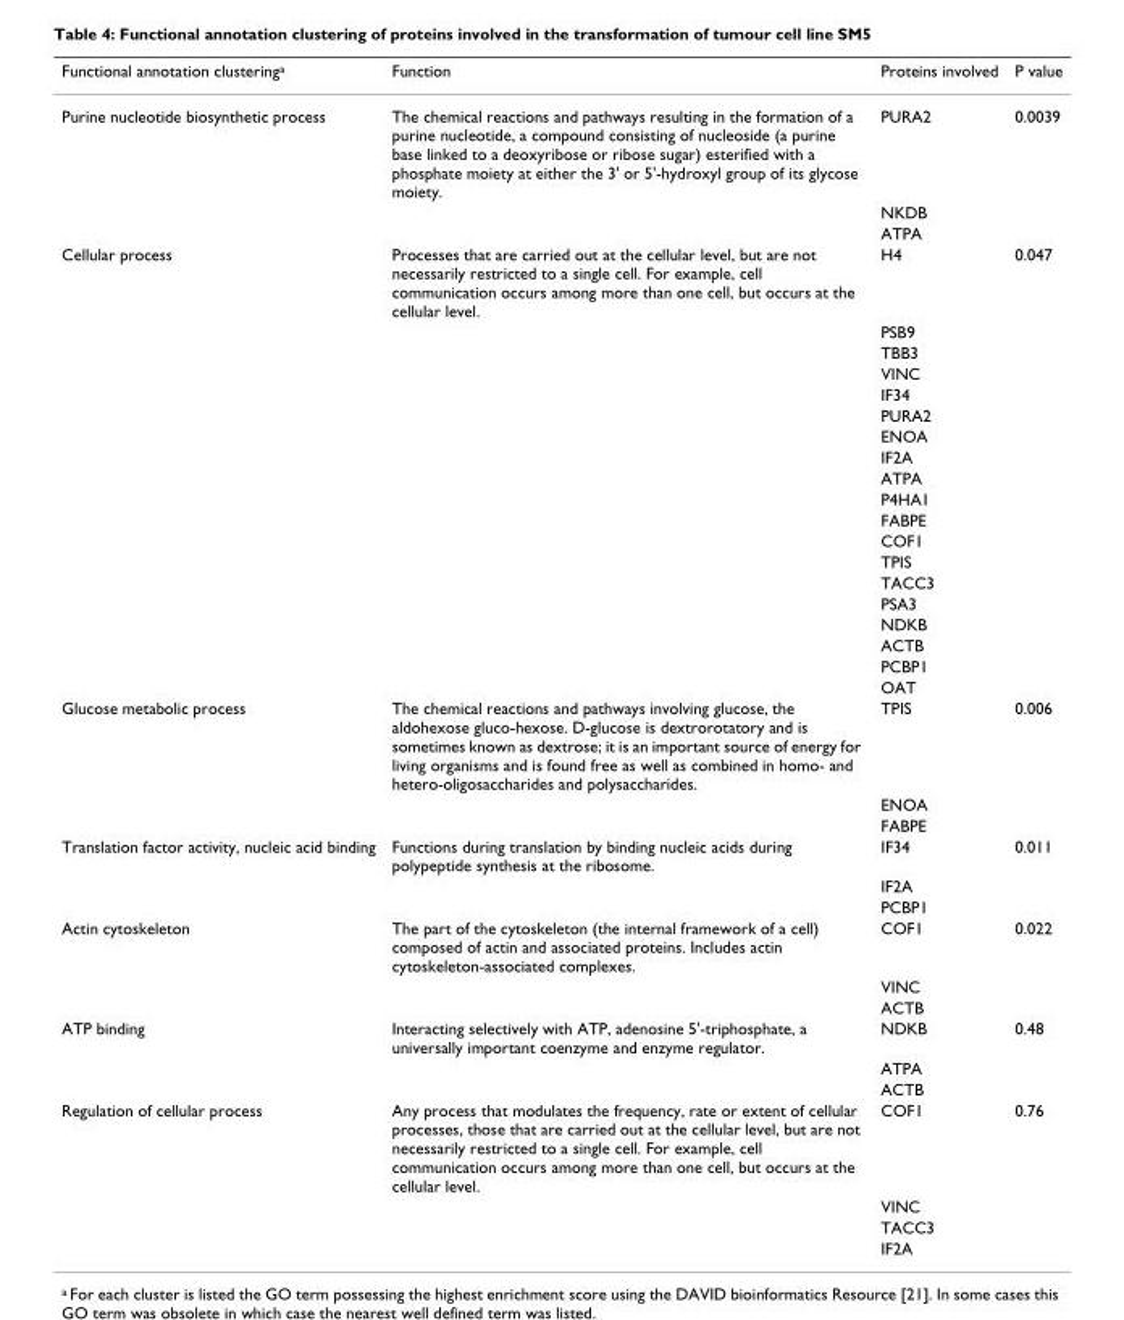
<table><thead><tr><td>Functional annotation clustering<sup>a</sup></td><td>Function</td><td>Proteins involved</td><td>P value</td></tr></thead><tbody><tr><td rowspan="3">Purine nucleotide biosynthetic process</td><td>The chemical reactions and pathways resulting in the formation of a purine nucleotide, a compound consisting of nucleoside (a purine base linked to a deoxyribose or ribose sugar) esterified with a phosphate moiety at either the 3&#x27; or 5&#x27;-hydroxyl group of its glycose moiety.</td><td>PURA2</td><td>0.0039</td></tr><tr><td></td><td>NKDB</td><td></td></tr><tr><td></td><td>ATPA</td><td></td></tr><tr><td rowspan="19">Cellular process</td><td>Processes that are carried out at the cellular level, but are not necessarily restricted to a single cell. For example, cell communication occurs among more than one cell, but occurs at the cellular level.</td><td>H4</td><td>0.047</td></tr><tr><td></td><td>PSB9</td><td></td></tr><tr><td></td><td>TBB3</td><td></td></tr><tr><td></td><td>VINC</td><td></td></tr><tr><td></td><td>IF34</td><td></td></tr><tr><td></td><td>PURA2</td><td></td></tr><tr><td></td><td>ENOA</td><td></td></tr><tr><td></td><td>IF2A</td><td></td></tr><tr><td></td><td>ATPA</td><td></td></tr><tr><td></td><td>P4HA1</td><td></td></tr><tr><td></td><td>FABPE</td><td></td></tr><tr><td></td><td>COF1</td><td></td></tr><tr><td></td><td>TPIS</td><td></td></tr><tr><td></td><td>TACC3</td><td></td></tr><tr><td></td><td>PSA3</td><td></td></tr><tr><td></td><td>NDKB</td><td></td></tr><tr><td></td><td>ACTB</td><td></td></tr><tr><td></td><td>PCBP1</td><td></td></tr><tr><td></td><td>OAT</td><td></td></tr><tr><td rowspan="3">Glucose metabolic process</td><td>The chemical reactions and pathways involving glucose, the aldohexose gluco-hexose. D-glucose is dextrorotatory and is sometimes known as dextrose; it is an important source of energy for living organisms and is found free as well as combined in homo- and hetero-oligosaccharides and polysaccharides.</td><td>TPIS</td><td>0.006</td></tr><tr><td></td><td>ENOA</td><td></td></tr><tr><td></td><td>FABPE</td><td></td></tr><tr><td rowspan="3">Translation factor activity, nucleic acid binding</td><td>Functions during translation by binding nucleic acids during polypeptide synthesis at the ribosome.</td><td>IF34</td><td>0.011</td></tr><tr><td></td><td>IF2A</td><td></td></tr><tr><td></td><td>PCBP1</td><td></td></tr><tr><td rowspan="3">Actin cytoskeleton</td><td>The part of the cytoskeleton (the internal framework of a cell) composed of actin and associated proteins. Includes actin cytoskeleton-associated complexes.</td><td>COF1</td><td>0.022</td></tr><tr><td></td><td>VINC</td><td></td></tr><tr><td></td><td>ACTB</td><td></td></tr><tr><td rowspan="3">ATP binding</td><td>Interacting selectively with ATP, adenosine 5&#x27;-triphosphate, a universally important coenzyme and enzyme regulator.</td><td>NDKB</td><td>0.48</td></tr><tr><td></td><td>ATPA</td><td></td></tr><tr><td></td><td>ACTB</td><td></td></tr><tr><td rowspan="4">Regulation of cellular process</td><td>Any process that modulates the frequency, rate or extent of cellular processes, those that are carried out at the cellular level, but are not necessarily restricted to a single cell. For example, cell communication occurs among more than one cell, but occurs at the cellular level.</td><td>COF1</td><td>0.76</td></tr><tr><td></td><td>VINC</td><td></td></tr><tr><td></td><td>TACC3</td><td></td></tr><tr><td></td><td>IF2A</td><td></td></tr></tbody></table>